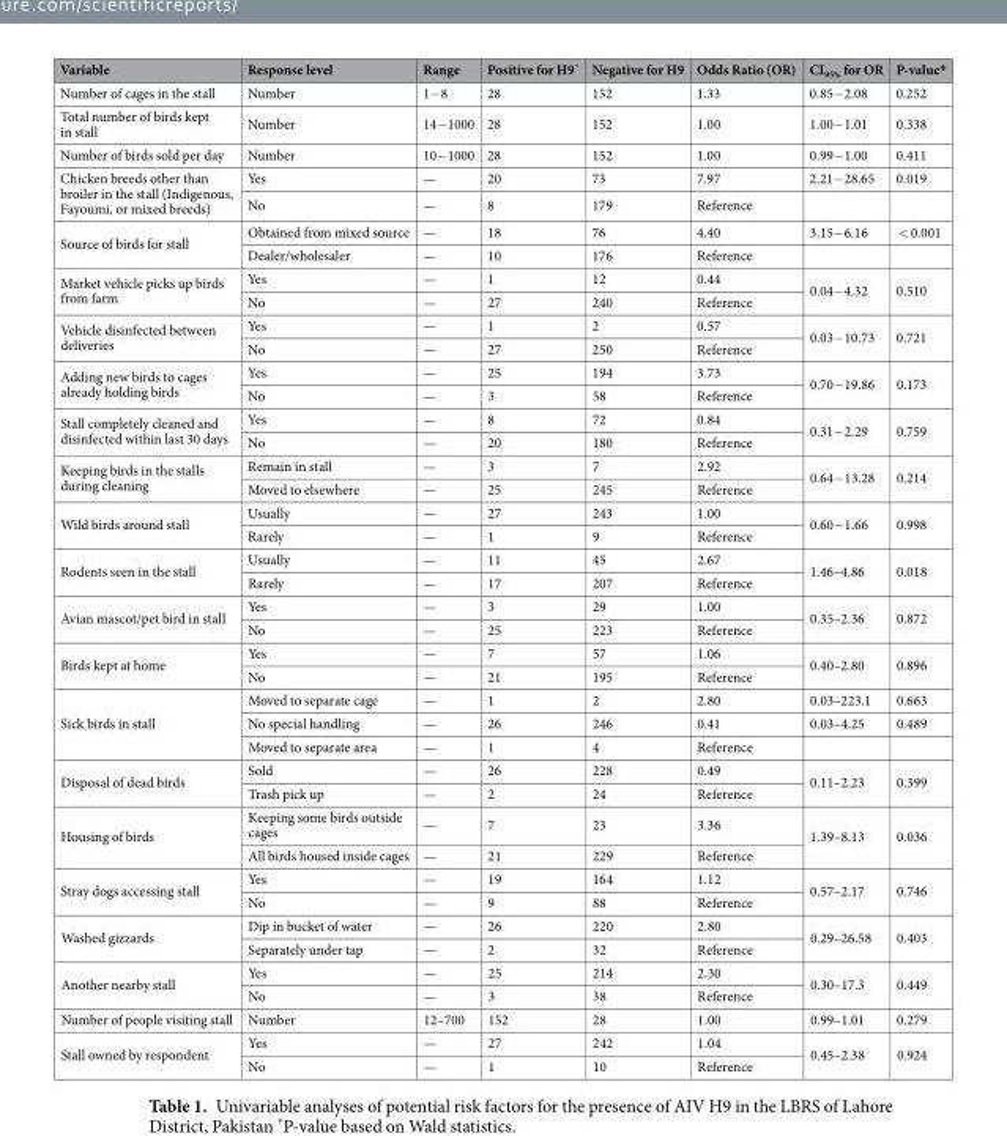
<table><thead><tr><td>Variable</td><td>Response level</td><td>Range</td><td>Positive for H9`</td><td>Negative for H9</td><td>Odds Ratio (OR)</td><td>CI<sub>95%</sub> for OR</td><td>P-value*</td></tr></thead><tbody><tr><td>Number of cages in the stall</td><td>Number</td><td>1−8</td><td>28</td><td>152</td><td>1.33</td><td>0.85−2.08</td><td>0.252</td></tr><tr><td>Total number of birds kept in stall</td><td>Number</td><td>14−1000</td><td>28</td><td>152</td><td>1.00</td><td>1.00−1.01</td><td>0.338</td></tr><tr><td>Number of birds sold per day</td><td>Number</td><td>10−1000</td><td>28</td><td>152</td><td>1.00</td><td>0.99−1.00</td><td>0.411</td></tr><tr><td rowspan="2">Chicken breeds other than broiler in the stall (Indigenous, Fayoumi, or mixed breeds)</td><td>Yes</td><td>—</td><td>20</td><td>73</td><td>7.97</td><td>2.21−28.65</td><td>0.019</td></tr><tr><td>No</td><td>—</td><td>8</td><td>179</td><td>Reference</td><td></td><td></td></tr><tr><td rowspan="2">Source of birds for stall</td><td>Obtained from mixed source</td><td>—</td><td>18</td><td>76</td><td>4.40</td><td>3.15−6.16</td><td>&lt; 0.001</td></tr><tr><td>Dealer/wholesaler</td><td>—</td><td>10</td><td>176</td><td>Reference</td><td></td><td></td></tr><tr><td rowspan="2">Market vehicle picks up birds from farm</td><td>Yes</td><td>—</td><td>1</td><td>12</td><td>0.44</td><td rowspan="2">0.04−4.32</td><td rowspan="2">0.510</td></tr><tr><td>No</td><td>—</td><td>27</td><td>240</td><td>Reference</td></tr><tr><td rowspan="2">Vehicle disinfected between deliveries</td><td>Yes</td><td>—</td><td>1</td><td>2</td><td>0.57</td><td rowspan="2">0.03−10.73</td><td rowspan="2">0.721</td></tr><tr><td>No</td><td>—</td><td>27</td><td>250</td><td>Reference</td></tr><tr><td rowspan="2">Adding new birds to cages already holding birds</td><td>Yes</td><td>—</td><td>25</td><td>194</td><td>3.73</td><td rowspan="2">0.70−19.86</td><td rowspan="2">0.173</td></tr><tr><td>No</td><td>—</td><td>3</td><td>58</td><td>Reference</td></tr><tr><td rowspan="2">Stall completely cleaned and disinfected within last 30 days</td><td>Yes</td><td>—</td><td>8</td><td>72</td><td>0.84</td><td rowspan="2">0.31−2.29</td><td rowspan="2">0.759</td></tr><tr><td>No</td><td>—</td><td>20</td><td>180</td><td>Reference</td></tr><tr><td rowspan="2">Keeping birds in the stalls during cleaning</td><td>Remain in stall</td><td>—</td><td>3</td><td>7</td><td>2.92</td><td rowspan="2">0.64−13.28</td><td rowspan="2">0.214</td></tr><tr><td>Moved to elsewhere</td><td>—</td><td>25</td><td>245</td><td>Reference</td></tr><tr><td rowspan="2">Wild birds around stall</td><td>Usually</td><td>—</td><td>27</td><td>243</td><td>1.00</td><td rowspan="2">0.60−1.66</td><td rowspan="2">0.998</td></tr><tr><td>Rarely</td><td>—</td><td>1</td><td>9</td><td>Reference</td></tr><tr><td rowspan="2">Rodents seen in the stall</td><td>Usually</td><td>—</td><td>11</td><td>45</td><td>2.67</td><td rowspan="2">1.46–4.86</td><td rowspan="2">0.018</td></tr><tr><td>Rarely</td><td>—</td><td>17</td><td>207</td><td>Reference</td></tr><tr><td rowspan="2">Avian mascot/pet bird in stall</td><td>Yes</td><td>—</td><td>3</td><td>29</td><td>1.00</td><td rowspan="2">0.35–2.36</td><td rowspan="2">0.872</td></tr><tr><td>No</td><td>—</td><td>25</td><td>223</td><td>Reference</td></tr><tr><td rowspan="2">Birds kept at home</td><td>Yes</td><td>—</td><td>7</td><td>57</td><td>1.06</td><td rowspan="2">0.40–2.80</td><td rowspan="2">0.896</td></tr><tr><td>No</td><td>—</td><td>21</td><td>195</td><td>Reference</td></tr><tr><td rowspan="3">Sick birds in stall</td><td>Moved to separate cage</td><td>—</td><td>1</td><td>2</td><td>2.80</td><td>0.03–223.1</td><td>0.663</td></tr><tr><td>No special handling</td><td>—</td><td>26</td><td>246</td><td>0.41</td><td>0.03–4.25</td><td>0.489</td></tr><tr><td>Moved to separate area</td><td>—</td><td>1</td><td>4</td><td>Reference</td><td></td><td></td></tr><tr><td rowspan="2">Disposal of dead birds</td><td>Sold</td><td>—</td><td>26</td><td>228</td><td>0.49</td><td rowspan="2">0.11–2.23</td><td rowspan="2">0.399</td></tr><tr><td>Trash pick up</td><td>—</td><td>2</td><td>24</td><td>Reference</td></tr><tr><td rowspan="2">Housing of birds</td><td>Keeping some birds outside cages</td><td>—</td><td>7</td><td>23</td><td>3.36</td><td rowspan="2">1.39–8.13</td><td rowspan="2">0.036</td></tr><tr><td>All birds housed inside cages</td><td>—</td><td>21</td><td>229</td><td>Reference</td></tr><tr><td rowspan="2">Stray dogs accessing stall</td><td>Yes</td><td>—</td><td>19</td><td>164</td><td>1.12</td><td rowspan="2">0.57–2.17</td><td rowspan="2">0.746</td></tr><tr><td>No</td><td>—</td><td>9</td><td>88</td><td>Reference</td></tr><tr><td rowspan="2">Washed gizzards</td><td>Dip in bucket of water</td><td>—</td><td>26</td><td>220</td><td>2.80</td><td rowspan="2">0.29–26.58</td><td rowspan="2">0.403</td></tr><tr><td>Separately under tap</td><td>—</td><td>2</td><td>32</td><td>Reference</td></tr><tr><td rowspan="2">Another nearby stall</td><td>Yes</td><td>—</td><td>25</td><td>214</td><td>2.30</td><td rowspan="2">0.30–17.3</td><td rowspan="2">0.449</td></tr><tr><td>No</td><td>—</td><td>3</td><td>38</td><td>Reference</td></tr><tr><td>Number of people visiting stall</td><td>Number</td><td>12–700</td><td>152</td><td>28</td><td>1.00</td><td>0.99–1.01</td><td>0.279</td></tr><tr><td rowspan="2">Stall owned by respondent</td><td>Yes</td><td>—</td><td>27</td><td>242</td><td>1.04</td><td rowspan="2">0.45–2.38</td><td rowspan="2">0.924</td></tr><tr><td>No</td><td>—</td><td>1</td><td>10</td><td>Reference</td></tr></tbody></table>